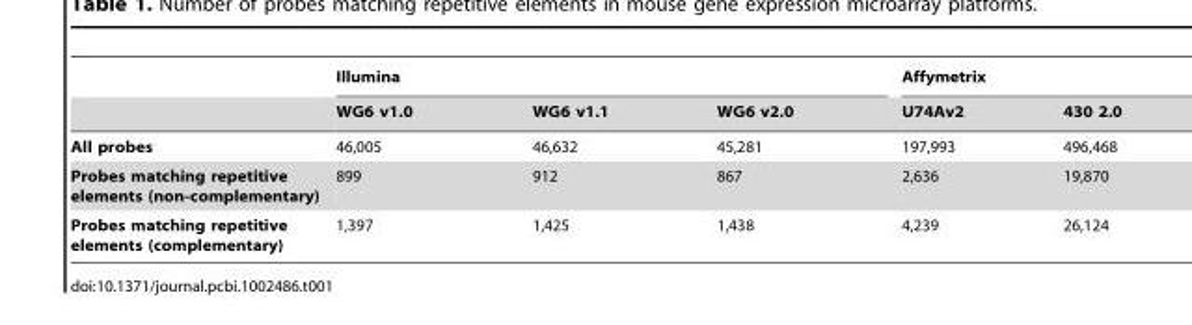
<table><thead><tr><td rowspan="2"></td><td colspan="3">Illumina</td><td colspan="2">Affymetrix</td></tr><tr><td>WG6 v1.0</td><td>WG6 v1.1</td><td>WG6 v2.0</td><td>U74Av2</td><td>430 2.0</td></tr></thead><tbody><tr><td>All probes</td><td>46,005</td><td>46,632</td><td>45,281</td><td>197,993</td><td>496,468</td></tr><tr><td>Probes matching repetitive elements (non-complementary)</td><td>899</td><td>912</td><td>867</td><td>2,636</td><td>19,870</td></tr><tr><td>Probes matching repetitive elements (complementary)</td><td>1,397</td><td>1,425</td><td>1,438</td><td>4,239</td><td>26,124</td></tr></tbody></table>